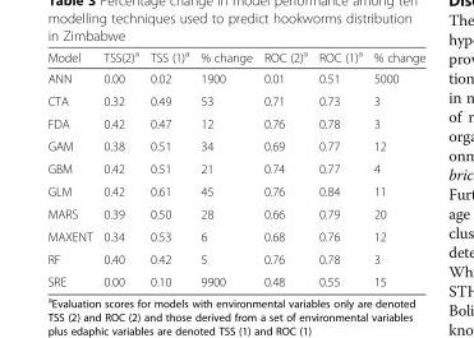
<table><thead><tr><td>Model</td><td>TSS(2)<sup>a</sup></td><td>TSS (1)<sup>a</sup></td><td>% change</td><td>ROC (2)<sup>a</sup></td><td>ROC (1)<sup>a</sup></td><td>% change</td></tr></thead><tbody><tr><td>ANN</td><td>0.00</td><td>0.02</td><td>1900</td><td>0.01</td><td>0.51</td><td>5000</td></tr><tr><td>CTA</td><td>0.32</td><td>0.49</td><td>53</td><td>0.71</td><td>0.73</td><td>3</td></tr><tr><td>FDA</td><td>0.42</td><td>0.47</td><td>12</td><td>0.76</td><td>0.78</td><td>3</td></tr><tr><td>GAM</td><td>0.38</td><td>0.51</td><td>34</td><td>0.69</td><td>0.77</td><td>12</td></tr><tr><td>GBM</td><td>0.42</td><td>0.51</td><td>21</td><td>0.74</td><td>0.77</td><td>4</td></tr><tr><td>GLM</td><td>0.42</td><td>0.61</td><td>45</td><td>0.76</td><td>0.84</td><td>11</td></tr><tr><td>MARS</td><td>0.39</td><td>0.50</td><td>28</td><td>0.66</td><td>0.79</td><td>20</td></tr><tr><td>MAXENT</td><td>0.34</td><td>0.53</td><td>6</td><td>0.68</td><td>0.76</td><td>12</td></tr><tr><td>RF</td><td>0.40</td><td>0.42</td><td>5</td><td>0.76</td><td>0.78</td><td>3</td></tr><tr><td>SRE</td><td>0.00</td><td>0.10</td><td>9900</td><td>0.48</td><td>0.55</td><td>15</td></tr></tbody></table>